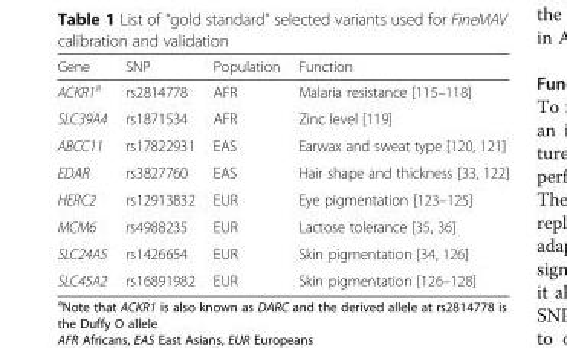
<table><thead><tr><td>Gene</td><td>SNP</td><td>Population</td><td>Function</td></tr></thead><tbody><tr><td>ACKR1<sup>a</sup></td><td>rs2814778</td><td>AFR</td><td>Malaria resistance [115–118]</td></tr><tr><td>SLC39A4</td><td>rs1871534</td><td>AFR</td><td>Zinc level [119]</td></tr><tr><td>ABCC11</td><td>rs17822931</td><td>EAS</td><td>Earwax and sweat type [120, 121]</td></tr><tr><td>EDAR</td><td>rs3827760</td><td>EAS</td><td>Hair shape and thickness [33, 122]</td></tr><tr><td>HERC2</td><td>rs12913832</td><td>EUR</td><td>Eye pigmentation [123–125]</td></tr><tr><td>MCM6</td><td>rs4988235</td><td>EUR</td><td>Lactose tolerance [35, 36]</td></tr><tr><td>SLC24A5</td><td>rs1426654</td><td>EUR</td><td>Skin pigmentation [34, 126]</td></tr><tr><td>SLC45A2</td><td>rs16891982</td><td>EUR</td><td>Skin pigmentation [126–128]</td></tr></tbody></table>